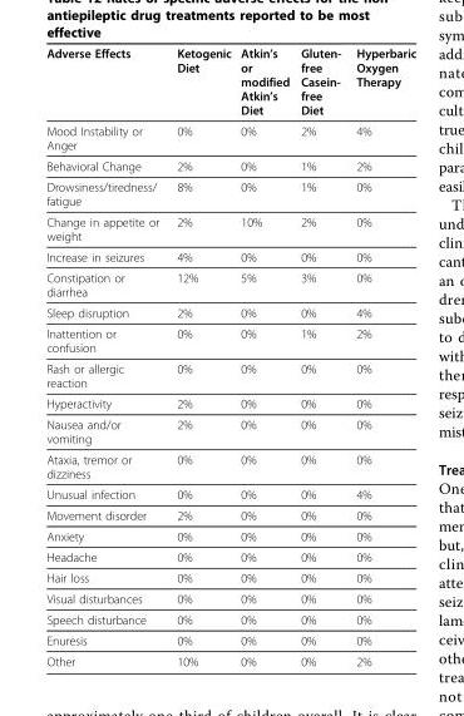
<table><thead><tr><td>Adverse Effects</td><td>Ketogenic Diet</td><td>Atkin’s or modified Atkin’s Diet</td><td>Gluten- free Casein- free Diet</td><td>Hyperbaric Oxygen Therapy</td></tr></thead><tbody><tr><td>Mood Instability or Anger</td><td>0%</td><td>0%</td><td>2%</td><td>4%</td></tr><tr><td>Behavioral Change</td><td>2%</td><td>0%</td><td>1%</td><td>2%</td></tr><tr><td>Drowsiness/tiredness/ fatigue</td><td>8%</td><td>0%</td><td>1%</td><td>0%</td></tr><tr><td>Change in appetite or weight</td><td>2%</td><td>10%</td><td>2%</td><td>0%</td></tr><tr><td>Increase in seizures</td><td>4%</td><td>0%</td><td>0%</td><td>0%</td></tr><tr><td>Constipation or diarrhea</td><td>12%</td><td>5%</td><td>3%</td><td>0%</td></tr><tr><td>Sleep disruption</td><td>2%</td><td>0%</td><td>0%</td><td>4%</td></tr><tr><td>Inattention or confusion</td><td>0%</td><td>0%</td><td>1%</td><td>2%</td></tr><tr><td>Rash or allergic reaction</td><td>0%</td><td>0%</td><td>0%</td><td>0%</td></tr><tr><td>Hyperactivity</td><td>2%</td><td>0%</td><td>0%</td><td>0%</td></tr><tr><td>Nausea and/or vomiting</td><td>2%</td><td>0%</td><td>0%</td><td>0%</td></tr><tr><td>Ataxia, tremor or dizziness</td><td>0%</td><td>0%</td><td>0%</td><td>0%</td></tr><tr><td>Unusual infection</td><td>0%</td><td>0%</td><td>0%</td><td>4%</td></tr><tr><td>Movement disorder</td><td>2%</td><td>0%</td><td>0%</td><td>0%</td></tr><tr><td>Anxiety</td><td>0%</td><td>0%</td><td>0%</td><td>0%</td></tr><tr><td>Headache</td><td>0%</td><td>0%</td><td>0%</td><td>0%</td></tr><tr><td>Hair loss</td><td>0%</td><td>0%</td><td>0%</td><td>0%</td></tr><tr><td>Visual disturbances</td><td>0%</td><td>0%</td><td>0%</td><td>0%</td></tr><tr><td>Speech disturbance</td><td>0%</td><td>0%</td><td>0%</td><td>0%</td></tr><tr><td>Enuresis</td><td>0%</td><td>0%</td><td>0%</td><td>0%</td></tr><tr><td>Other</td><td>10%</td><td>0%</td><td>0%</td><td>2%</td></tr></tbody></table>